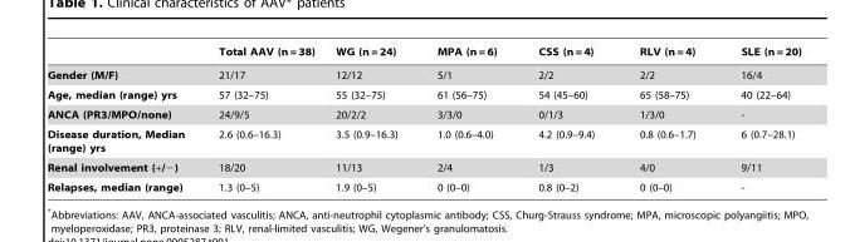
<table><thead><tr><td></td><td>Total AAV (n = 38)</td><td>WG (n = 24)</td><td>MPA (n = 6)</td><td>CSS (n = 4)</td><td>RLV (n = 4)</td><td>SLE (n = 20)</td></tr></thead><tbody><tr><td>Gender (M/F)</td><td>21/17</td><td>12/12</td><td>5/1</td><td>2/2</td><td>2/2</td><td>16/4</td></tr><tr><td>Age, median (range) yrs</td><td>57 (32–75)</td><td>55 (32–75)</td><td>61 (56–75)</td><td>54 (45–60)</td><td>65 (58–75)</td><td>40 (22–64)</td></tr><tr><td>ANCA (PR3/MPO/none)</td><td>24/9/5</td><td>20/2/2</td><td>3/3/0</td><td>0/1/3</td><td>1/3/0</td><td>-</td></tr><tr><td>Disease duration, Median (range) yrs</td><td>2.6 (0.6–16.3)</td><td>3.5 (0.9–16.3)</td><td>1.0 (0.6–4.0)</td><td>4.2 (0.9–9.4)</td><td>0.8 (0.6–1.7)</td><td>6 (0.7–28.1)</td></tr><tr><td>Renal involvement (+/−)</td><td>18/20</td><td>11/13</td><td>2/4</td><td>1/3</td><td>4/0</td><td>9/11</td></tr><tr><td>Relapses, median (range)</td><td>1.3 (0–5)</td><td>1.9 (0–5)</td><td>0 (0–0)</td><td>0.8 (0–2)</td><td>0 (0–0)</td><td>-</td></tr></tbody></table>